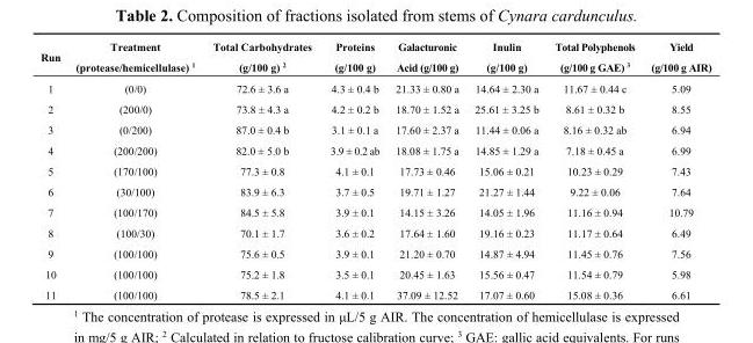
<table><thead><tr><td>Run</td><td>Treatment (protease/hemicellulase) <sup>1</sup></td><td>Total Carbohydrates (g/100 g) <sup>2</sup></td><td>Proteins (g/100 g)</td><td>Galacturonic Acid (g/100 g)</td><td>Inulin (g/100 g)</td><td>Total Polyphenols (g/100 g GAE) <sup>3</sup></td><td>Yield (g/100 g AIR)</td></tr></thead><tbody><tr><td>1</td><td>(0/0)</td><td>72.6 ± 3.6 a</td><td>4.3 ± 0.4 b</td><td>21.33 ± 0.80 a</td><td>14.64 ± 2.30 a</td><td>11.67 ± 0.44 c</td><td>5.09</td></tr><tr><td>2</td><td>(200/0)</td><td>73.8 ± 4.3 a</td><td>4.2 ± 0.2 b</td><td>18.70 ± 1.52 a</td><td>25.61 ± 3.25 b</td><td>8.61 ± 0.32 b</td><td>8.55</td></tr><tr><td>3</td><td>(0/200)</td><td>87.0 ± 0.4 b</td><td>3.1 ± 0.1 a</td><td>17.60 ± 2.37 a</td><td>11.44 ± 0.06 a</td><td>8.16 ± 0.32 ab</td><td>6.94</td></tr><tr><td>4</td><td>(200/200)</td><td>82.0 ± 5.0 b</td><td>3.9 ± 0.2 ab</td><td>18.08 ± 1.75 a</td><td>14.85 ± 1.29 a</td><td>7.18 ± 0.45 a</td><td>6.99</td></tr><tr><td>5</td><td>(170/100)</td><td>77.3 ± 0.8</td><td>4.1 ± 0.1</td><td>17.73 ± 0.46</td><td>15.06 ± 0.21</td><td>10.23 ± 0.29</td><td>7.43</td></tr><tr><td>6</td><td>(30/100)</td><td>83.9 ± 6.3</td><td>3.7 ± 0.5</td><td>19.71 ± 1.27</td><td>21.27 ± 1.44</td><td>9.22 ± 0.06</td><td>7.64</td></tr><tr><td>7</td><td>(100/170)</td><td>84.5 ± 5.8</td><td>3.9 ± 0.1</td><td>14.15 ± 3.26</td><td>14.05 ± 1.96</td><td>11.16 ± 0.94</td><td>10.79</td></tr><tr><td>8</td><td>(100/30)</td><td>70.1 ± 1.7</td><td>3.6 ± 0.2</td><td>17.64 ± 1.60</td><td>19.16 ± 0.23</td><td>11.17 ± 0.64</td><td>6.49</td></tr><tr><td>9</td><td>(100/100)</td><td>75.6 ± 0.5</td><td>3.9 ± 0.1</td><td>21.20 ± 0.70</td><td>14.87 ± 4.94</td><td>11.45 ± 0.76</td><td>7.56</td></tr><tr><td>10</td><td>(100/100)</td><td>75.2 ± 1.8</td><td>3.5 ± 0.1</td><td>20.45 ± 1.63</td><td>15.56 ± 0.47</td><td>11.54 ± 0.79</td><td>5.98</td></tr><tr><td>11</td><td>(100/100)</td><td>78.5 ± 2.1</td><td>4.1 ± 0.1</td><td>37.09 ± 12.52</td><td>17.07 ± 0.60</td><td>15.08 ± 0.36</td><td>6.61</td></tr></tbody></table>